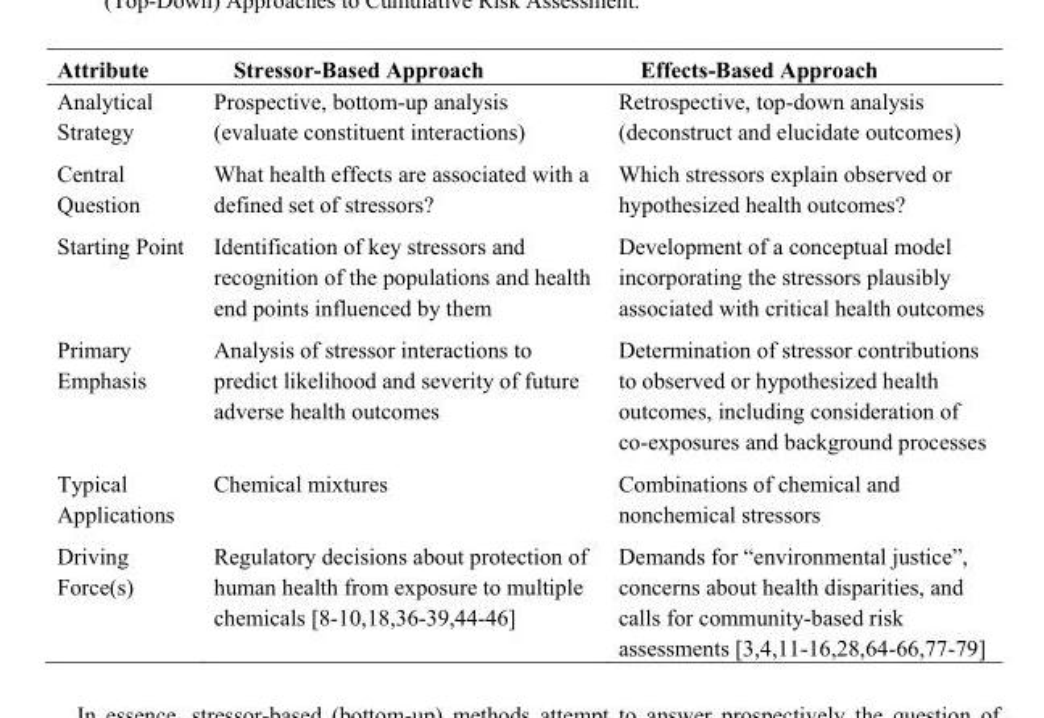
<table><thead><tr><td>Attribute</td><td>Stressor-Based Approach</td><td>Effects-Based Approach</td></tr></thead><tbody><tr><td>Analytical Strategy</td><td>Prospective, bottom-up analysis (evaluate constituent interactions)</td><td>Retrospective, top-down analysis (deconstruct and elucidate outcomes)</td></tr><tr><td>Central Question</td><td>What health effects are associated with a defined set of stressors?</td><td>Which stressors explain observed or hypothesized health outcomes?</td></tr><tr><td>Starting Point</td><td>Identification of key stressors and recognition of the populations and health end points influenced by them</td><td>Development of a conceptual model incorporating the stressors plausibly associated with critical health outcomes</td></tr><tr><td>Primary Emphasis</td><td>Analysis of stressor interactions to predict likelihood and severity of future adverse health outcomes</td><td>Determination of stressor contributions to observed or hypothesized health outcomes, including consideration of co-exposures and background processes</td></tr><tr><td>Typical Applications</td><td>Chemical mixtures</td><td>Combinations of chemical and nonchemical stressors</td></tr><tr><td>Driving Force(s)</td><td>Regulatory decisions about protection of human health from exposure to multiple chemicals [8-10,18,36-39,44-46]</td><td>Demands for “environmental justice”, concerns about health disparities, and calls for community-based risk assessments [3,4,11-16,28,64-66,77-79]</td></tr></tbody></table>